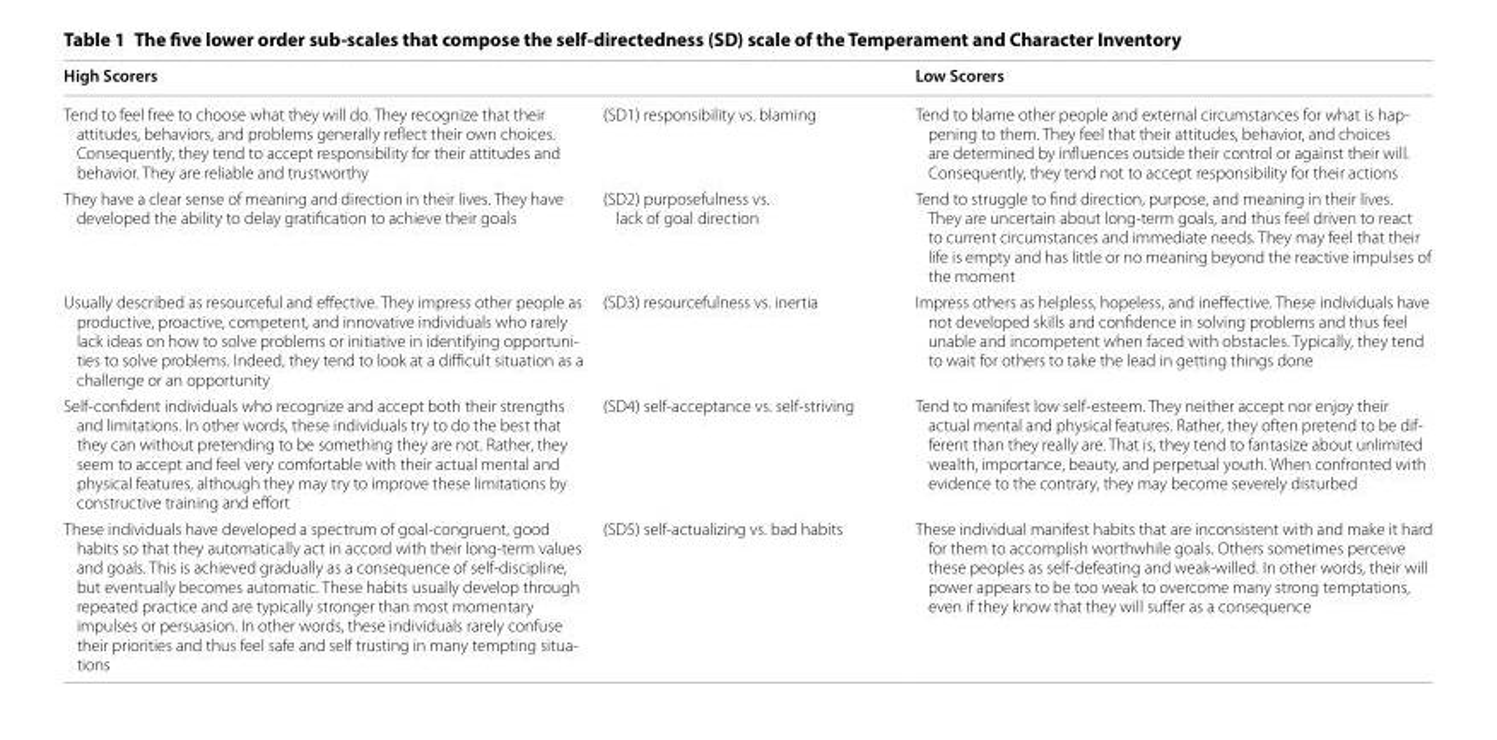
<table><thead><tr><td>High Scorers</td><td></td><td>Low Scorers</td></tr></thead><tbody><tr><td>Tend to feel free to choose what they will do. They recognize that their attitudes, behaviors, and problems generally reflect their own choices. Consequently, they tend to accept responsibility for their attitudes and behavior. They are reliable and trustworthy</td><td>(SD1) responsibility vs. blaming</td><td>Tend to blame other people and external circumstances for what is hap- pening to them. They feel that their attitudes, behavior, and choices are determined by influences outside their control or against their will. Consequently, they tend not to accept responsibility for their actions</td></tr><tr><td>They have a clear sense of meaning and direction in their lives. They have developed the ability to delay gratification to achieve their goals</td><td>(SD2) purposefulness vs. lack of goal direction</td><td>Tend to struggle to find direction, purpose, and meaning in their lives. They are uncertain about long-term goals, and thus feel driven to react to current circumstances and immediate needs. They may feel that their life is empty and has little or no meaning beyond the reactive impulses of the moment</td></tr><tr><td>Usually described as resourceful and effective. They impress other people as productive, proactive, competent, and innovative individuals who rarely lack ideas on how to solve problems or initiative in identifying opportuni- ties to solve problems. Indeed, they tend to look at a difficult situation as a challenge or an opportunity</td><td>(SD3) resourcefulness vs. inertia</td><td>Impress others as helpless, hopeless, and ineffective. These individuals have not developed skills and confidence in solving problems and thus feel unable and incompetent when faced with obstacles. Typically, they tend to wait for others to take the lead in getting things done</td></tr><tr><td>Self-confident individuals who recognize and accept both their strengths and limitations. In other words, these individuals try to do the best that they can without pretending to be something they are not. Rather, they seem to accept and feel very comfortable with their actual mental and physical features, although they may try to improve these limitations by constructive training and effort</td><td>(SD4) self-acceptance vs. self-striving</td><td>Tend to manifest low self-esteem. They neither accept nor enjoy their actual mental and physical features. Rather, they often pretend to be dif- ferent than they really are. That is, they tend to fantasize about unlimited wealth, importance, beauty, and perpetual youth. When confronted with evidence to the contrary, they may become severely disturbed</td></tr><tr><td>These individuals have developed a spectrum of goal-congruent, good habits so that they automatically act in accord with their long-term values and goals. This is achieved gradually as a consequence of self-discipline, but eventually becomes automatic. These habits usually develop through repeated practice and are typically stronger than most momentary impulses or persuasion. In other words, these individuals rarely confuse their priorities and thus feel safe and self trusting in many tempting situa- tions</td><td>(SD5) self-actualizing vs. bad habits</td><td>These individual manifest habits that are inconsistent with and make it hard for them to accomplish worthwhile goals. Others sometimes perceive these peoples as self-defeating and weak-willed. In other words, their will power appears to be too weak to overcome many strong temptations, even if they know that they will suffer as a consequence</td></tr></tbody></table>